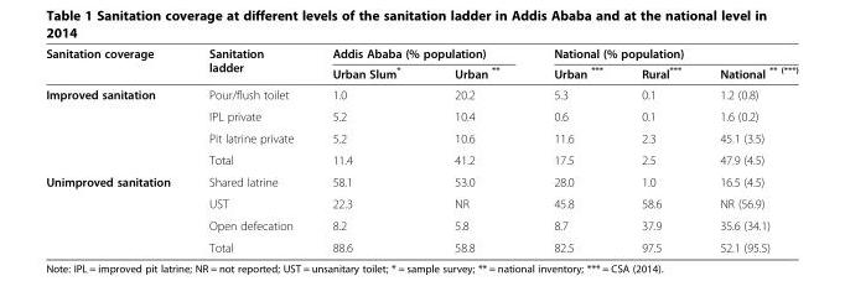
<table><thead><tr><td rowspan="2">Sanitation coverage</td><td rowspan="2">Sanitation ladder</td><td colspan="2">Addis Ababa (% population)</td><td colspan="3">National (% population)</td></tr><tr><td>Urban Slum*</td><td>Urban **</td><td>Urban ***</td><td>Rural***</td><td>National <sup>** (***)</sup></td></tr></thead><tbody><tr><td rowspan="4">Improved sanitation</td><td>Pour/flush toilet</td><td>1.0</td><td>20.2</td><td>5.3</td><td>0.1</td><td>1.2 (0.8)</td></tr><tr><td>IPL private</td><td>5.2</td><td>10.4</td><td>0.6</td><td>0.1</td><td>1.6 (0.2)</td></tr><tr><td>Pit latrine private</td><td>5.2</td><td>10.6</td><td>11.6</td><td>2.3</td><td>45.1 (3.5)</td></tr><tr><td>Total</td><td>11.4</td><td>41.2</td><td>17.5</td><td>2.5</td><td>47.9 (4.5)</td></tr><tr><td rowspan="4">Unimproved sanitation</td><td>Shared latrine</td><td>58.1</td><td>53.0</td><td>28.0</td><td>1.0</td><td>16.5 (4.5)</td></tr><tr><td>UST</td><td>22.3</td><td>NR</td><td>45.8</td><td>58.6</td><td>NR (56.9)</td></tr><tr><td>Open defecation</td><td>8.2</td><td>5.8</td><td>8.7</td><td>37.9</td><td>35.6 (34.1)</td></tr><tr><td>Total</td><td>88.6</td><td>58.8</td><td>82.5</td><td>97.5</td><td>52.1 (95.5)</td></tr></tbody></table>